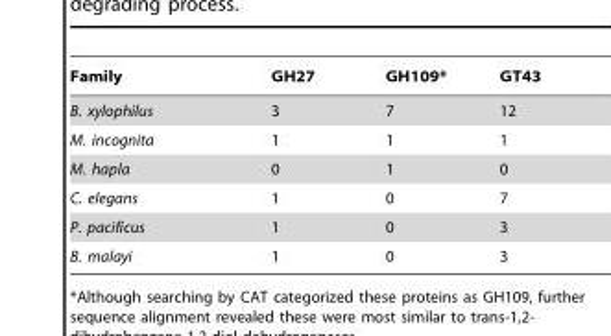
<table><thead><tr><td>Family</td><td>GH27</td><td>GH109*</td><td>GT43</td></tr></thead><tbody><tr><td>B. xylophilus</td><td>3</td><td>7</td><td>12</td></tr><tr><td>M. incognita</td><td>1</td><td>1</td><td>1</td></tr><tr><td>M. hapla</td><td>0</td><td>1</td><td>0</td></tr><tr><td>C. elegans</td><td>1</td><td>0</td><td>7</td></tr><tr><td>P. pacificus</td><td>1</td><td>0</td><td>3</td></tr><tr><td>B. malayi</td><td>1</td><td>0</td><td>3</td></tr></tbody></table>